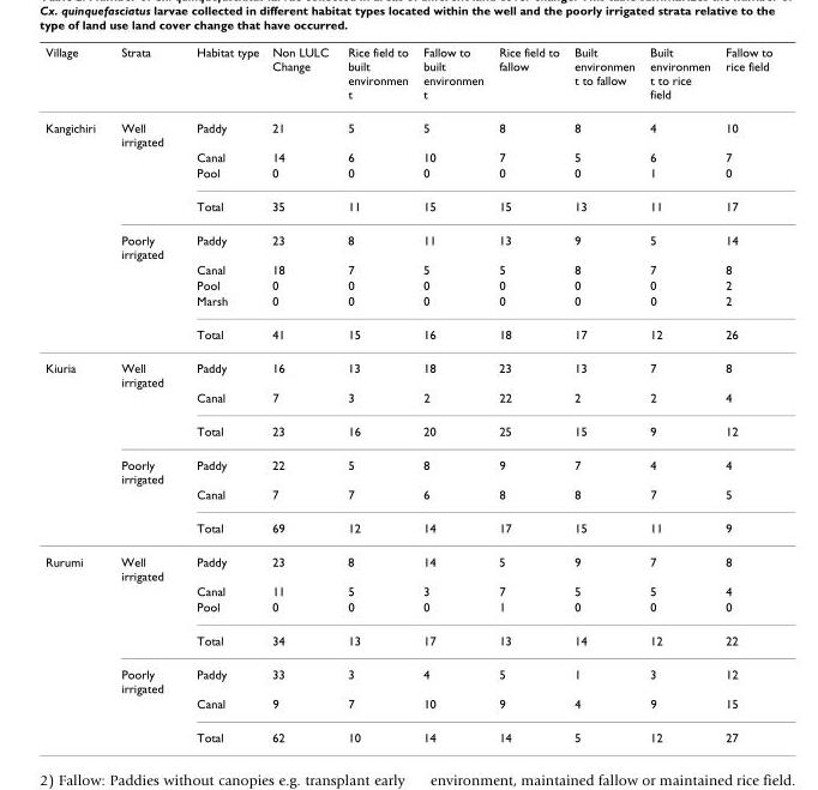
<table><thead><tr><td>Village</td><td>Strata</td><td>Habitat type</td><td>Non LULC Change</td><td>Rice field to built environmen t</td><td>Fallow to built environmen t</td><td>Rice field to fallow</td><td>Built environmen t to fallow</td><td>Built environmen t to rice field</td><td>Fallow to rice field</td></tr></thead><tbody><tr><td rowspan="9">Kangichiri</td><td>Well irrigated</td><td>Paddy</td><td>21</td><td>5</td><td>5</td><td>8</td><td>8</td><td>4</td><td>10</td></tr><tr><td></td><td>Canal</td><td>14</td><td>6</td><td>10</td><td>7</td><td>5</td><td>6</td><td>7</td></tr><tr><td></td><td>Pool</td><td>0</td><td>0</td><td>0</td><td>0</td><td>0</td><td>1</td><td>0</td></tr><tr><td></td><td>Total</td><td>35</td><td>11</td><td>15</td><td>15</td><td>13</td><td>11</td><td>17</td></tr><tr><td>Poorly irrigated</td><td>Paddy</td><td>23</td><td>8</td><td>11</td><td>13</td><td>9</td><td>5</td><td>14</td></tr><tr><td></td><td>Canal</td><td>18</td><td>7</td><td>5</td><td>5</td><td>8</td><td>7</td><td>8</td></tr><tr><td></td><td>Pool</td><td>0</td><td>0</td><td>0</td><td>0</td><td>0</td><td>0</td><td>2</td></tr><tr><td></td><td>Marsh</td><td>0</td><td>0</td><td>0</td><td>0</td><td>0</td><td>0</td><td>2</td></tr><tr><td></td><td>Total</td><td>41</td><td>15</td><td>16</td><td>18</td><td>17</td><td>12</td><td>26</td></tr><tr><td rowspan="6">Kiuria</td><td>Well irrigated</td><td>Paddy</td><td>16</td><td>13</td><td>18</td><td>23</td><td>13</td><td>7</td><td>8</td></tr><tr><td></td><td>Canal</td><td>7</td><td>3</td><td>2</td><td>22</td><td>2</td><td>2</td><td>4</td></tr><tr><td></td><td>Total</td><td>23</td><td>16</td><td>20</td><td>25</td><td>15</td><td>9</td><td>12</td></tr><tr><td>Poorly irrigated</td><td>Paddy</td><td>22</td><td>5</td><td>8</td><td>9</td><td>7</td><td>4</td><td>4</td></tr><tr><td></td><td>Canal</td><td>7</td><td>7</td><td>6</td><td>8</td><td>8</td><td>7</td><td>5</td></tr><tr><td></td><td>Total</td><td>69</td><td>12</td><td>14</td><td>17</td><td>15</td><td>11</td><td>9</td></tr><tr><td rowspan="7">Rurumi</td><td>Well irrigated</td><td>Paddy</td><td>23</td><td>8</td><td>14</td><td>5</td><td>9</td><td>7</td><td>8</td></tr><tr><td></td><td>Canal</td><td>11</td><td>5</td><td>3</td><td>7</td><td>5</td><td>5</td><td>4</td></tr><tr><td></td><td>Pool</td><td>0</td><td>0</td><td>0</td><td>1</td><td>0</td><td>0</td><td>0</td></tr><tr><td></td><td>Total</td><td>34</td><td>13</td><td>17</td><td>13</td><td>14</td><td>12</td><td>22</td></tr><tr><td>Poorly irrigated</td><td>Paddy</td><td>33</td><td>3</td><td>4</td><td>5</td><td>1</td><td>3</td><td>12</td></tr><tr><td></td><td>Canal</td><td>9</td><td>7</td><td>10</td><td>9</td><td>4</td><td>9</td><td>15</td></tr><tr><td></td><td>Total</td><td>62</td><td>10</td><td>14</td><td>14</td><td>5</td><td>12</td><td>27</td></tr></tbody></table>